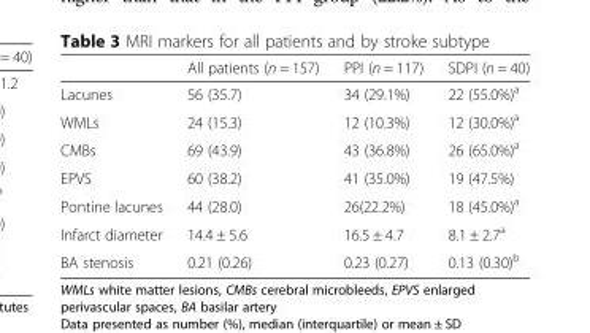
<table><thead><tr><td></td><td>All patients (n = 157)</td><td>PPI (n = 117)</td><td>SDPI (n = 40)</td></tr></thead><tbody><tr><td>Lacunes</td><td>56 (35.7)</td><td>34 (29.1%)</td><td>22 (55.0%)<sup>a</sup></td></tr><tr><td>WMLs</td><td>24 (15.3)</td><td>12 (10.3%)</td><td>12 (30.0%)<sup>a</sup></td></tr><tr><td>CMBs</td><td>69 (43.9)</td><td>43 (36.8%)</td><td>26 (65.0%)<sup>a</sup></td></tr><tr><td>EPVS</td><td>60 (38.2)</td><td>41 (35.0%)</td><td>19 (47.5%)</td></tr><tr><td>Pontine lacunes</td><td>44 (28.0)</td><td>26(22.2%)</td><td>18 (45.0%)<sup>a</sup></td></tr><tr><td>Infarct diameter</td><td>14.4 ± 5.6</td><td>16.5 ± 4.7</td><td>8.1 ± 2.7<sup>a</sup></td></tr><tr><td>BA stenosis</td><td>0.21 (0.26)</td><td>0.23 (0.27)</td><td>0.13 (0.30)<sup>b</sup></td></tr></tbody></table>